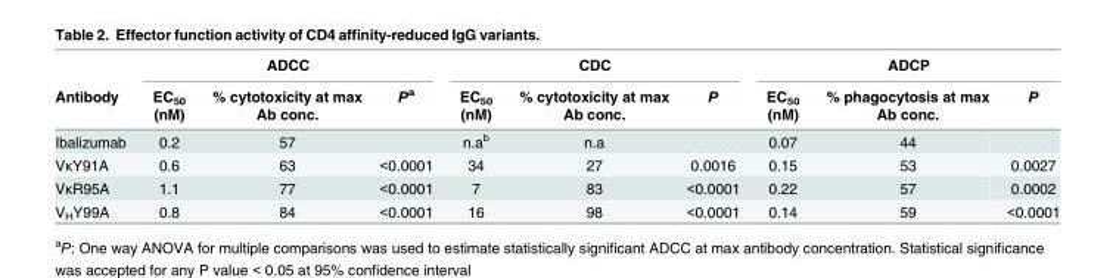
<table><thead><tr><td rowspan="2">Antibody</td><td colspan="3">ADCC</td><td colspan="3">CDC</td><td colspan="3">ADCP</td></tr><tr><td>EC<sub>50</sub> (nM)</td><td>% cytotoxicity at max Ab conc.</td><td>P<sup>a</sup></td><td>EC<sub>50</sub> (nM)</td><td>% cytotoxicity at max Ab conc.</td><td>P</td><td>EC<sub>50</sub> (nM)</td><td>% phagocytosis at max Ab conc.</td><td>P</td></tr></thead><tbody><tr><td>Ibalizumab</td><td>0.2</td><td>57</td><td></td><td>n.a<sup>b</sup></td><td>n.a</td><td></td><td>0.07</td><td>44</td><td></td></tr><tr><td>VκY91A</td><td>0.6</td><td>63</td><td>&lt;0.0001</td><td>34</td><td>27</td><td>0.0016</td><td>0.15</td><td>53</td><td>0.0027</td></tr><tr><td>VκR95A</td><td>1.1</td><td>77</td><td>&lt;0.0001</td><td>7</td><td>83</td><td>&lt;0.0001</td><td>0.22</td><td>57</td><td>0.0002</td></tr><tr><td>V<sub>H</sub>Y99A</td><td>0.8</td><td>84</td><td>&lt;0.0001</td><td>16</td><td>98</td><td>&lt;0.0001</td><td>0.14</td><td>59</td><td>&lt;0.0001</td></tr></tbody></table>